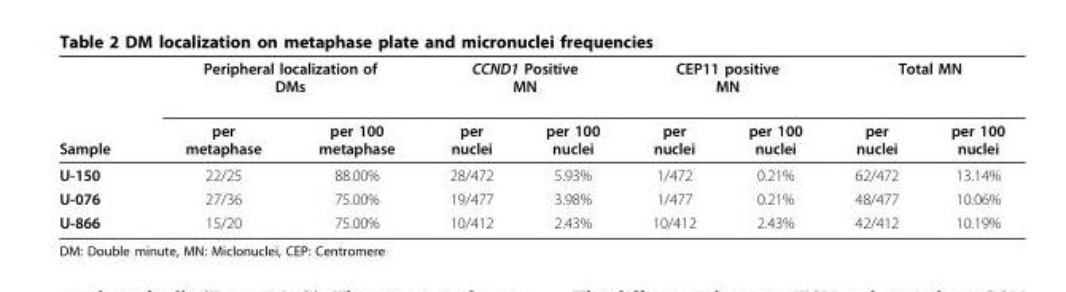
<table><thead><tr><td rowspan="2">Sample</td><td colspan="2">Peripheral localization of DMs</td><td colspan="2">CCND1 Positive MN</td><td colspan="2">CEP11 positive MN</td><td colspan="2">Total MN</td></tr><tr><td>per metaphase</td><td>per 100 metaphase</td><td>per nuclei</td><td>per 100 nuclei</td><td>per nuclei</td><td>per 100 nuclei</td><td>per nuclei</td><td>per 100 nuclei</td></tr></thead><tbody><tr><td>U-150</td><td>22/25</td><td>88.00%</td><td>28/472</td><td>5.93%</td><td>1/472</td><td>0.21%</td><td>62/472</td><td>13.14%</td></tr><tr><td>U-076</td><td>27/36</td><td>75.00%</td><td>19/477</td><td>3.98%</td><td>1/477</td><td>0.21%</td><td>48/477</td><td>10.06%</td></tr><tr><td>U-866</td><td>15/20</td><td>75.00%</td><td>10/412</td><td>2.43%</td><td>10/412</td><td>2.43%</td><td>42/412</td><td>10.19%</td></tr></tbody></table>